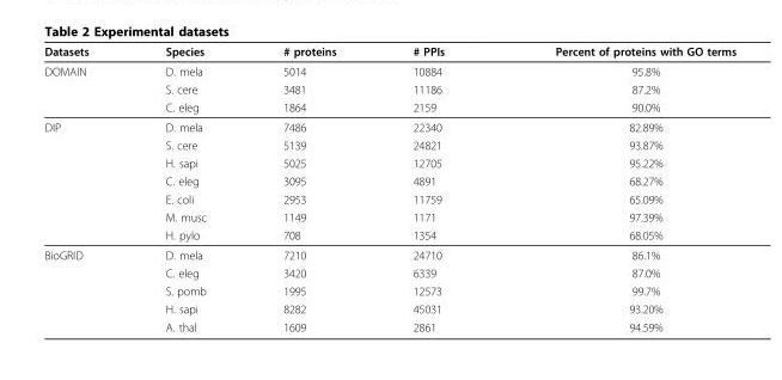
<table><thead><tr><td>Datasets</td><td>Species</td><td># proteins</td><td># PPIs</td><td>Percent of proteins with GO terms</td></tr></thead><tbody><tr><td rowspan="3">DOMAIN</td><td>D. mela</td><td>5014</td><td>10884</td><td>95.8%</td></tr><tr><td>S. cere</td><td>3481</td><td>11186</td><td>87.2%</td></tr><tr><td>C. eleg</td><td>1864</td><td>2159</td><td>90.0%</td></tr><tr><td rowspan="7">DIP</td><td>D. mela</td><td>7486</td><td>22340</td><td>82.89%</td></tr><tr><td>S. cere</td><td>5139</td><td>24821</td><td>93.87%</td></tr><tr><td>H. sapi</td><td>5025</td><td>12705</td><td>95.22%</td></tr><tr><td>C. eleg</td><td>3095</td><td>4891</td><td>68.27%</td></tr><tr><td>E. coli</td><td>2953</td><td>11759</td><td>65.09%</td></tr><tr><td>M. musc</td><td>1149</td><td>1171</td><td>97.39%</td></tr><tr><td>H. pylo</td><td>708</td><td>1354</td><td>68.05%</td></tr><tr><td rowspan="5">BioGRID</td><td>D. mela</td><td>7210</td><td>24710</td><td>86.1%</td></tr><tr><td>C. eleg</td><td>3420</td><td>6339</td><td>87.0%</td></tr><tr><td>S. pomb</td><td>1995</td><td>12573</td><td>99.7%</td></tr><tr><td>H. sapi</td><td>8282</td><td>45031</td><td>93.20%</td></tr><tr><td>A. thal</td><td>1609</td><td>2861</td><td>94.59%</td></tr></tbody></table>